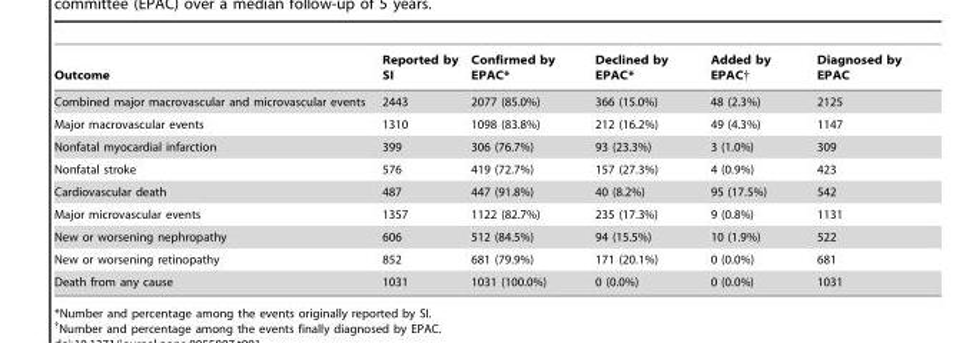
<table><thead><tr><td>Outcome</td><td>Reported by SI</td><td>Confirmed by EPAC*</td><td>Declined by EPAC*</td><td>Added by EPAC†</td><td>Diagnosed by EPAC</td></tr></thead><tbody><tr><td>Combined major macrovascular and microvascular events</td><td>2443</td><td>2077 (85.0%)</td><td>366 (15.0%)</td><td>48 (2.3%)</td><td>2125</td></tr><tr><td>Major macrovascular events</td><td>1310</td><td>1098 (83.8%)</td><td>212 (16.2%)</td><td>49 (4.3%)</td><td>1147</td></tr><tr><td>Nonfatal myocardial infarction</td><td>399</td><td>306 (76.7%)</td><td>93 (23.3%)</td><td>3 (1.0%)</td><td>309</td></tr><tr><td>Nonfatal stroke</td><td>576</td><td>419 (72.7%)</td><td>157 (27.3%)</td><td>4 (0.9%)</td><td>423</td></tr><tr><td>Cardiovascular death</td><td>487</td><td>447 (91.8%)</td><td>40 (8.2%)</td><td>95 (17.5%)</td><td>542</td></tr><tr><td>Major microvascular events</td><td>1357</td><td>1122 (82.7%)</td><td>235 (17.3%)</td><td>9 (0.8%)</td><td>1131</td></tr><tr><td>New or worsening nephropathy</td><td>606</td><td>512 (84.5%)</td><td>94 (15.5%)</td><td>10 (1.9%)</td><td>522</td></tr><tr><td>New or worsening retinopathy</td><td>852</td><td>681 (79.9%)</td><td>171 (20.1%)</td><td>0 (0.0%)</td><td>681</td></tr><tr><td>Death from any cause</td><td>1031</td><td>1031 (100.0%)</td><td>0 (0.0%)</td><td>0 (0.0%)</td><td>1031</td></tr></tbody></table>